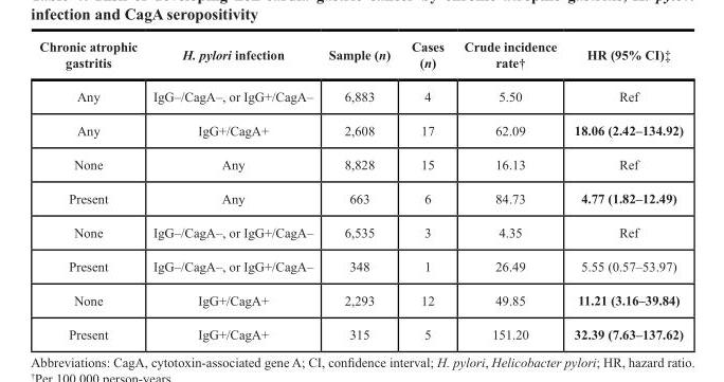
<table><thead><tr><td>Chronic atrophic gastritis</td><td>H. pylori infection</td><td>Sample (n)</td><td>Cases (n)</td><td>Crude incidence rate†</td><td>HR (95% CI)‡</td></tr></thead><tbody><tr><td>Any</td><td>IgG–/CagA–, or IgG+/CagA–</td><td>6,883</td><td>4</td><td>5.50</td><td>Ref</td></tr><tr><td>Any</td><td>IgG+/CagA+</td><td>2,608</td><td>17</td><td>62.09</td><td>18.06 (2.42–134.92)</td></tr><tr><td>None</td><td>Any</td><td>8,828</td><td>15</td><td>16.13</td><td>Ref</td></tr><tr><td>Present</td><td>Any</td><td>663</td><td>6</td><td>84.73</td><td>4.77 (1.82–12.49)</td></tr><tr><td>None</td><td>IgG–/CagA–, or IgG+/CagA–</td><td>6,535</td><td>3</td><td>4.35</td><td>Ref</td></tr><tr><td>Present</td><td>IgG–/CagA–, or IgG+/CagA–</td><td>348</td><td>1</td><td>26.49</td><td>5.55 (0.57–53.97)</td></tr><tr><td>None</td><td>IgG+/CagA+</td><td>2,293</td><td>12</td><td>49.85</td><td>11.21 (3.16–39.84)</td></tr><tr><td>Present</td><td>IgG+/CagA+</td><td>315</td><td>5</td><td>151.20</td><td>32.39 (7.63–137.62)</td></tr></tbody></table>